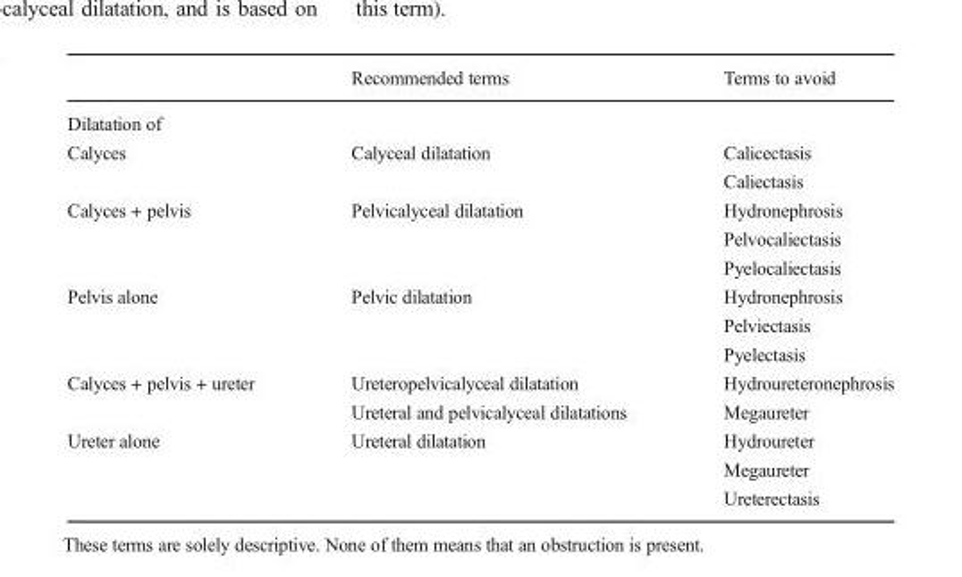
<table><thead><tr><td></td><td>Recommended terms</td><td>Terms to avoid</td></tr></thead><tbody><tr><td colspan="3">Dilatation of</td></tr><tr><td>Calyces</td><td>Calyceal dilatation</td><td>Calicectasis Caliectasis</td></tr><tr><td>Calyces + pelvis</td><td>Pelvicalyceal dilatation</td><td>Hydronephrosis Pelvocaliectasis Pyelocaliectasis</td></tr><tr><td>Pelvis alone</td><td>Pelvic dilatation</td><td>Hydronephrosis Pelviectasis Pyelectasis</td></tr><tr><td>Calyces + pelvis + ureter</td><td>Ureteropelvicalyceal dilatation Ureteral and pelvicalyceal dilatations</td><td>Hydroureteronephrosis Megaureter</td></tr><tr><td>Ureter alone</td><td>Ureteral dilatation</td><td>Hydroureter Megaureter Ureterectasis</td></tr></tbody></table>